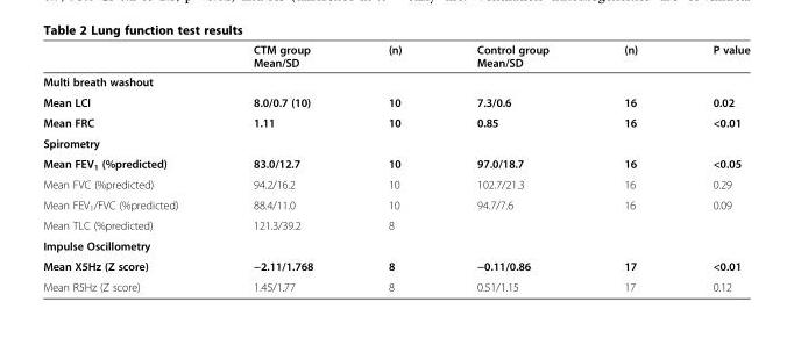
<table><thead><tr><td></td><td>CTM group Mean/SD</td><td>(n)</td><td>Control group Mean/SD</td><td>(n)</td><td>P value</td></tr></thead><tbody><tr><td colspan="6">Multi breath washout</td></tr><tr><td>Mean LCI</td><td>8.0/0.7 (10)</td><td>10</td><td>7.3/0.6</td><td>16</td><td>0.02</td></tr><tr><td>Mean FRC</td><td>1.11</td><td>10</td><td>0.85</td><td>16</td><td>&lt;0.01</td></tr><tr><td colspan="6">Spirometry</td></tr><tr><td>Mean FEV<sub>1</sub> (%predicted)</td><td>83.0/12.7</td><td>10</td><td>97.0/18.7</td><td>16</td><td>&lt;0.05</td></tr><tr><td>Mean FVC (%predicted)</td><td>94.2/16.2</td><td>10</td><td>102.7/21.3</td><td>16</td><td>0.29</td></tr><tr><td>Mean FEV<sub>1</sub>/FVC (%predicted)</td><td>88.4/11.0</td><td>10</td><td>94.7/7.6</td><td>16</td><td>0.09</td></tr><tr><td>Mean TLC (%predicted)</td><td>121.3/39.2</td><td>8</td><td></td><td></td><td></td></tr><tr><td colspan="6">Impulse Oscillometry</td></tr><tr><td>Mean X5Hz (Z score)</td><td>−2.11/1.768</td><td>8</td><td>−0.11/0.86</td><td>17</td><td>&lt;0.01</td></tr><tr><td>Mean R5Hz (Z score)</td><td>1.45/1.77</td><td>8</td><td>0.51/1.15</td><td>17</td><td>0.12</td></tr></tbody></table>